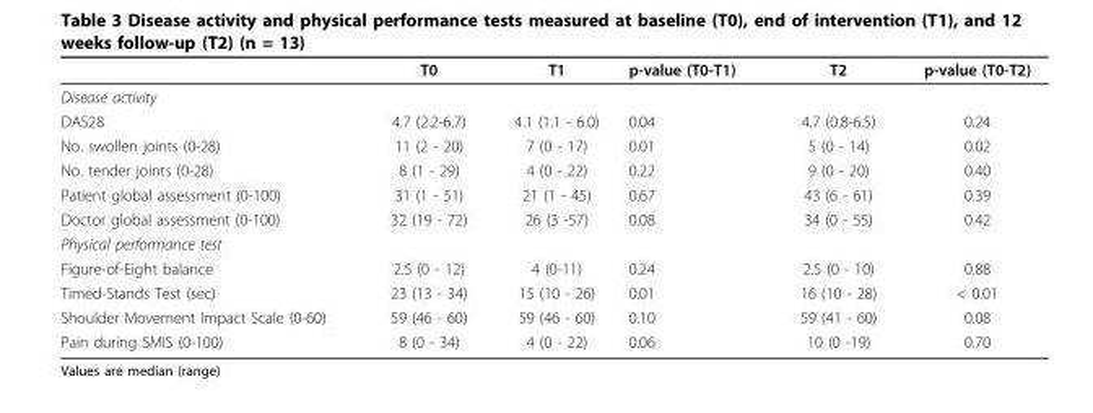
<table><thead><tr><td></td><td>T0</td><td>T1</td><td>p-value (T0-T1)</td><td>T2</td><td>p-value (T0-T2)</td></tr></thead><tbody><tr><td colspan="6">Disease activity</td></tr><tr><td>DAS28</td><td>4.7 (2.2-6.7)</td><td>4.1 (1.1 - 6.0)</td><td>0.04</td><td>4.7 (0.8-6.5)</td><td>0.24</td></tr><tr><td>No. swollen joints (0-28)</td><td>11 (2 - 20)</td><td>7 (0 - 17)</td><td>0.01</td><td>5 (0 - 14)</td><td>0.02</td></tr><tr><td>No. tender joints (0-28)</td><td>8 (1 - 29)</td><td>4 (0 - 22)</td><td>0.22</td><td>9 (0 - 20)</td><td>0.40</td></tr><tr><td>Patient global assessment (0-100)</td><td>31 (1 - 51)</td><td>21 (1 - 45)</td><td>0.67</td><td>43 (6 - 61)</td><td>0.39</td></tr><tr><td>Doctor global assessment (0-100)</td><td>32 (19 - 72)</td><td>26 (3 -57)</td><td>0.08</td><td>34 (0 - 55)</td><td>0.42</td></tr><tr><td colspan="6">Physical performance test</td></tr><tr><td>Figure-of-Eight balance</td><td>2.5 (0 - 12)</td><td>4 (0-11)</td><td>0.24</td><td>2.5 (0 - 10)</td><td>0.88</td></tr><tr><td>Timed-Stands Test (sec)</td><td>23 (13 - 34)</td><td>15 (10 - 26)</td><td>0.01</td><td>16 (10 - 28)</td><td>&lt; 0.01</td></tr><tr><td>Shoulder Movement Impact Scale (0-60)</td><td>59 (46 - 60)</td><td>59 (46 - 60)</td><td>0.10</td><td>59 (41 - 60)</td><td>0.08</td></tr><tr><td>Pain during SMIS (0-100)</td><td>8 (0 - 34)</td><td>4 (0 - 22)</td><td>0.06</td><td>10 (0 -19)</td><td>0.70</td></tr></tbody></table>